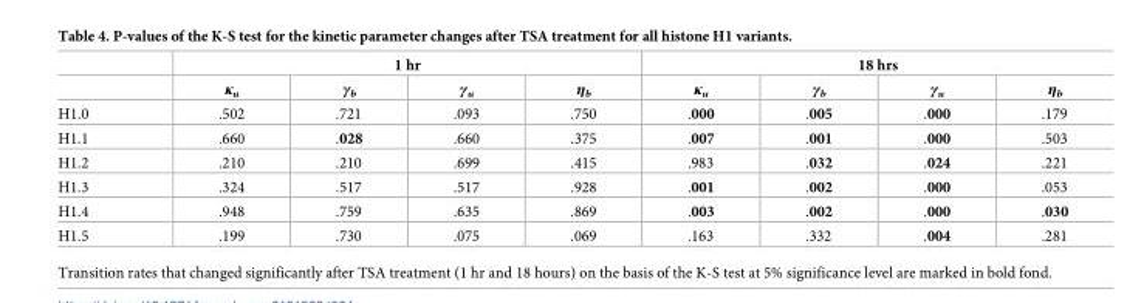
<table><thead><tr><td rowspan="2"></td><td colspan="4">1 hr</td><td colspan="4">18 hrs</td></tr><tr><td>κ<sub>u</sub></td><td>γ<sub>b</sub></td><td>γ<sub>u</sub></td><td>η<sub>b</sub></td><td>κ<sub>u</sub></td><td>γ<sub>b</sub></td><td>γ<sub>u</sub></td><td>η<sub>b</sub></td></tr></thead><tbody><tr><td>H1.0</td><td>.502</td><td>.721</td><td>.093</td><td>.750</td><td>.000</td><td>.005</td><td>.000</td><td>.179</td></tr><tr><td>H1.1</td><td>.660</td><td>.028</td><td>.660</td><td>.375</td><td>.007</td><td>.001</td><td>.000</td><td>.503</td></tr><tr><td>H1.2</td><td>.210</td><td>.210</td><td>.699</td><td>.415</td><td>.983</td><td>.032</td><td>.024</td><td>.221</td></tr><tr><td>H1.3</td><td>.324</td><td>.517</td><td>.517</td><td>.928</td><td>.001</td><td>.002</td><td>.000</td><td>.053</td></tr><tr><td>H1.4</td><td>.948</td><td>.759</td><td>.635</td><td>.869</td><td>.003</td><td>.002</td><td>.000</td><td>.030</td></tr><tr><td>H1.5</td><td>.199</td><td>.730</td><td>.075</td><td>.069</td><td>.163</td><td>.332</td><td>.004</td><td>.281</td></tr></tbody></table>